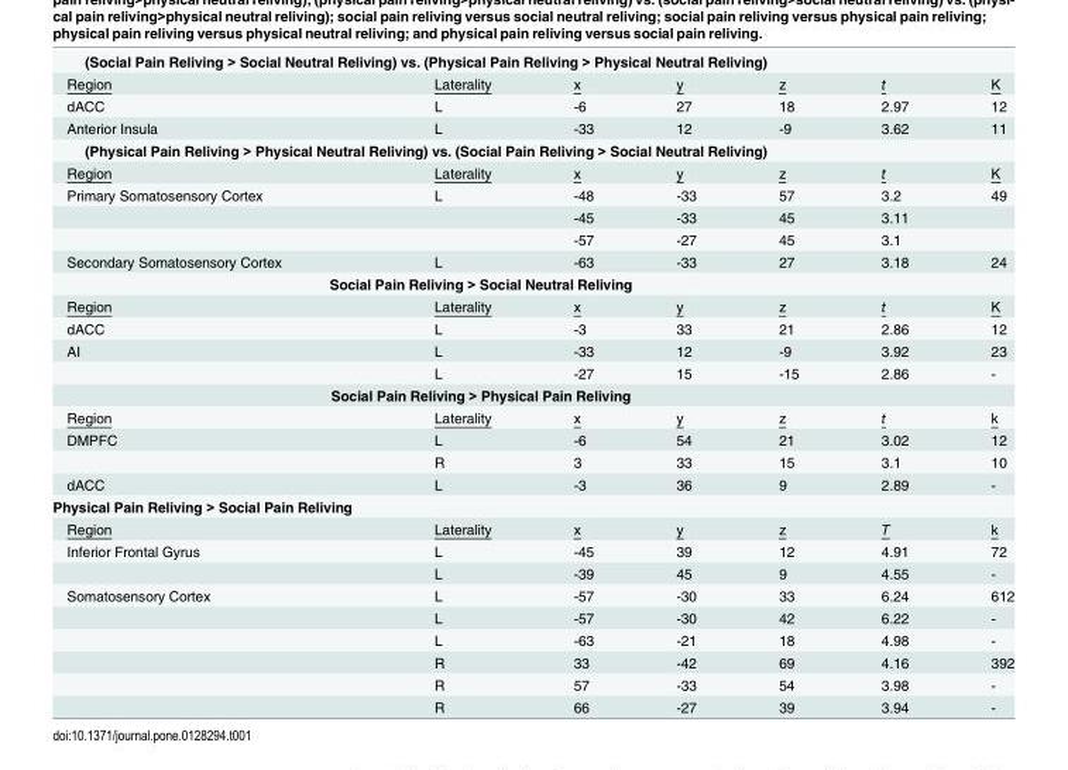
<table><tbody><tr><td colspan="7">(Social Pain Reliving &gt; Social Neutral Reliving) vs. (Physical Pain Reliving &gt; Physical Neutral Reliving)</td></tr><tr><td>Region</td><td>Laterality</td><td>x</td><td>y</td><td>z</td><td>t</td><td>K</td></tr><tr><td>dACC</td><td>L</td><td>-6</td><td>27</td><td>18</td><td>2.97</td><td>12</td></tr><tr><td>Anterior Insula</td><td>L</td><td>-33</td><td>12</td><td>-9</td><td>3.62</td><td>11</td></tr><tr><td colspan="7">(Physical Pain Reliving &gt; Physical Neutral Reliving) vs. (Social Pain Reliving &gt; Social Neutral Reliving)</td></tr><tr><td>Region</td><td>Laterality</td><td>x</td><td>y</td><td>z</td><td>t</td><td>K</td></tr><tr><td rowspan="3">Primary Somatosensory Cortex</td><td>L</td><td>-48</td><td>-33</td><td>57</td><td>3.2</td><td>49</td></tr><tr><td></td><td>-45</td><td>-33</td><td>45</td><td>3.11</td><td></td></tr><tr><td></td><td>-57</td><td>-27</td><td>45</td><td>3.1</td><td></td></tr><tr><td>Secondary Somatosensory Cortex</td><td>L</td><td>-63</td><td>-33</td><td>27</td><td>3.18</td><td>24</td></tr><tr><td colspan="7">Social Pain Reliving &gt; Social Neutral Reliving</td></tr><tr><td>Region</td><td>Laterality</td><td>x</td><td>y</td><td>z</td><td>t</td><td>K</td></tr><tr><td>dACC</td><td>L</td><td>-3</td><td>33</td><td>21</td><td>2.86</td><td>12</td></tr><tr><td rowspan="2">AI</td><td>L</td><td>-33</td><td>12</td><td>-9</td><td>3.92</td><td>23</td></tr><tr><td>L</td><td>-27</td><td>15</td><td>-15</td><td>2.86</td><td>-</td></tr><tr><td colspan="7">Social Pain Reliving &gt; Physical Pain Reliving</td></tr><tr><td>Region</td><td>Laterality</td><td>x</td><td>y</td><td>z</td><td>t</td><td>k</td></tr><tr><td rowspan="2">DMPFC</td><td>L</td><td>-6</td><td>54</td><td>21</td><td>3.02</td><td>12</td></tr><tr><td>R</td><td>3</td><td>33</td><td>15</td><td>3.1</td><td>10</td></tr><tr><td>dACC</td><td>L</td><td>-3</td><td>36</td><td>9</td><td>2.89</td><td>-</td></tr><tr><td colspan="7">Physical Pain Reliving &gt; Social Pain Reliving</td></tr><tr><td>Region</td><td>Laterality</td><td>x</td><td>y</td><td>z</td><td>T</td><td>k</td></tr><tr><td rowspan="2">Inferior Frontal Gyrus</td><td>L</td><td>-45</td><td>39</td><td>12</td><td>4.91</td><td>72</td></tr><tr><td>L</td><td>-39</td><td>45</td><td>9</td><td>4.55</td><td>-</td></tr><tr><td rowspan="6">Somatosensory Cortex</td><td>L</td><td>-57</td><td>-30</td><td>33</td><td>6.24</td><td>612</td></tr><tr><td>L</td><td>-57</td><td>-30</td><td>42</td><td>6.22</td><td>-</td></tr><tr><td>L</td><td>-63</td><td>-21</td><td>18</td><td>4.98</td><td>-</td></tr><tr><td>R</td><td>33</td><td>-42</td><td>69</td><td>4.16</td><td>392</td></tr><tr><td>R</td><td>57</td><td>-33</td><td>54</td><td>3.98</td><td>-</td></tr><tr><td>R</td><td>66</td><td>-27</td><td>39</td><td>3.94</td><td>-</td></tr></tbody></table>